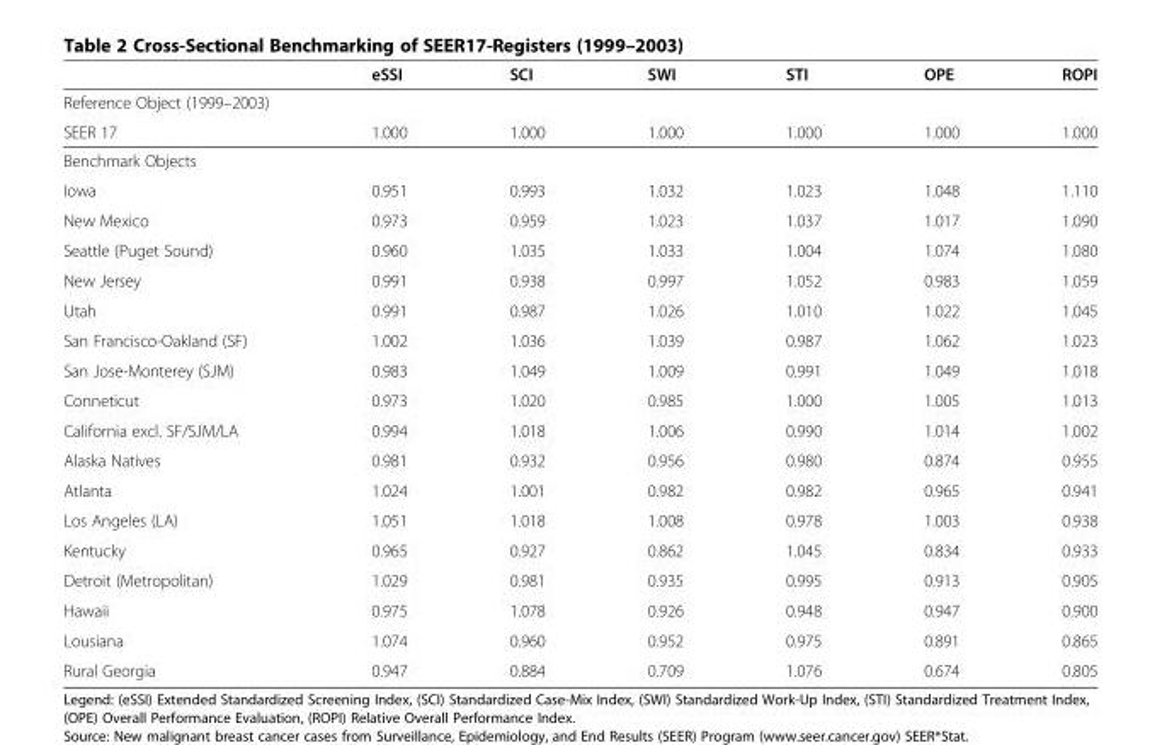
<table><thead><tr><td></td><td>eSSI</td><td>SCI</td><td>SWI</td><td>STI</td><td>OPE</td><td>ROPI</td></tr></thead><tbody><tr><td colspan="7">Reference Object (1999–2003)</td></tr><tr><td>SEER 17</td><td>1.000</td><td>1.000</td><td>1.000</td><td>1.000</td><td>1.000</td><td>1.000</td></tr><tr><td colspan="7">Benchmark Objects</td></tr><tr><td>Iowa</td><td>0.951</td><td>0.993</td><td>1.032</td><td>1.023</td><td>1.048</td><td>1.110</td></tr><tr><td>New Mexico</td><td>0.973</td><td>0.959</td><td>1.023</td><td>1.037</td><td>1.017</td><td>1.090</td></tr><tr><td>Seattle (Puget Sound)</td><td>0.960</td><td>1.035</td><td>1.033</td><td>1.004</td><td>1.074</td><td>1.080</td></tr><tr><td>New Jersey</td><td>0.991</td><td>0.938</td><td>0.997</td><td>1.052</td><td>0.983</td><td>1.059</td></tr><tr><td>Utah</td><td>0.991</td><td>0.987</td><td>1.026</td><td>1.010</td><td>1.022</td><td>1.045</td></tr><tr><td>San Francisco-Oakland (SF)</td><td>1.002</td><td>1.036</td><td>1.039</td><td>0.987</td><td>1.062</td><td>1.023</td></tr><tr><td>San Jose-Monterey (SJM)</td><td>0.983</td><td>1.049</td><td>1.009</td><td>0.991</td><td>1.049</td><td>1.018</td></tr><tr><td>Conneticut</td><td>0.973</td><td>1.020</td><td>0.985</td><td>1.000</td><td>1.005</td><td>1.013</td></tr><tr><td>California excl. SF/SJM/LA</td><td>0.994</td><td>1.018</td><td>1.006</td><td>0.990</td><td>1.014</td><td>1.002</td></tr><tr><td>Alaska Natives</td><td>0.981</td><td>0.932</td><td>0.956</td><td>0.980</td><td>0.874</td><td>0.955</td></tr><tr><td>Atlanta</td><td>1.024</td><td>1.001</td><td>0.982</td><td>0.982</td><td>0.965</td><td>0.941</td></tr><tr><td>Los Angeles (LA)</td><td>1.051</td><td>1.018</td><td>1.008</td><td>0.978</td><td>1.003</td><td>0.938</td></tr><tr><td>Kentucky</td><td>0.965</td><td>0.927</td><td>0.862</td><td>1.045</td><td>0.834</td><td>0.933</td></tr><tr><td>Detroit (Metropolitan)</td><td>1.029</td><td>0.981</td><td>0.935</td><td>0.995</td><td>0.913</td><td>0.905</td></tr><tr><td>Hawaii</td><td>0.975</td><td>1.078</td><td>0.926</td><td>0.948</td><td>0.947</td><td>0.900</td></tr><tr><td>Lousiana</td><td>1.074</td><td>0.960</td><td>0.952</td><td>0.975</td><td>0.891</td><td>0.865</td></tr><tr><td>Rural Georgia</td><td>0.947</td><td>0.884</td><td>0.709</td><td>1.076</td><td>0.674</td><td>0.805</td></tr></tbody></table>